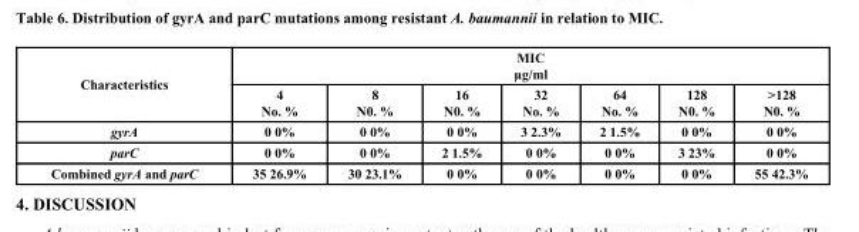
<table><thead><tr><td rowspan="2">Characteristics</td><td colspan="7">MIC µg/ml</td></tr><tr><td>4 No. %</td><td>8 N0. %</td><td>16 N0. %</td><td>32 No. %</td><td>64 No. %</td><td>128 N0. %</td><td>&gt;128 N0. %</td></tr></thead><tbody><tr><td>gyrA</td><td>0 0%</td><td>0 0%</td><td>0 0%</td><td>3 2.3%</td><td>2 1.5%</td><td>0 0%</td><td>0 0%</td></tr><tr><td>parC</td><td>0 0%</td><td>0 0%</td><td>2 1.5%</td><td>0 0%</td><td>0 0%</td><td>3 23%</td><td>0 0%</td></tr><tr><td>Combined gyrA and parC</td><td>35 26.9%</td><td>30 23.1%</td><td>0 0%</td><td>0 0%</td><td>0 0%</td><td>0 0%</td><td>55 42.3%</td></tr></tbody></table>